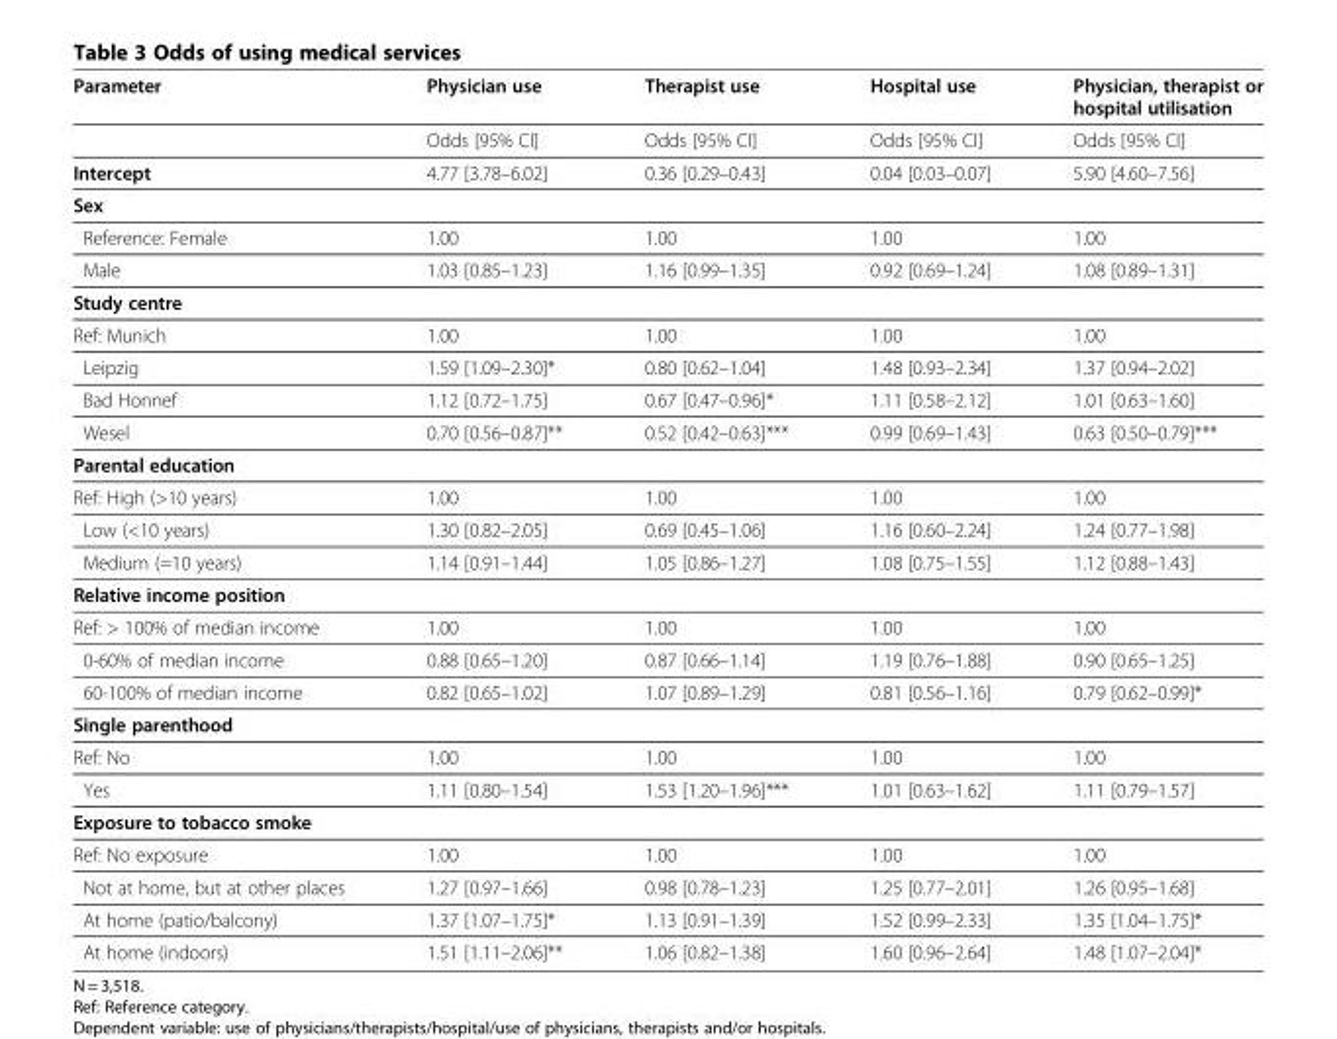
<table><thead><tr><td>Parameter</td><td>Physician use</td><td>Therapist use</td><td>Hospital use</td><td>Physician, therapist or hospital utilisation</td></tr></thead><tbody><tr><td></td><td>Odds [95% CI]</td><td>Odds [95% CI]</td><td>Odds [95% CI]</td><td>Odds [95% CI]</td></tr><tr><td>Intercept</td><td>4.77 [3.78–6.02]</td><td>0.36 [0.29–0.43]</td><td>0.04 [0.03–0.07]</td><td>5.90 [4.60–7.56]</td></tr><tr><td colspan="5">Sex</td></tr><tr><td>Reference: Female</td><td>1.00</td><td>1.00</td><td>1.00</td><td>1.00</td></tr><tr><td>Male</td><td>1.03 [0.85–1.23]</td><td>1.16 [0.99–1.35]</td><td>0.92 [0.69–1.24]</td><td>1.08 [0.89–1.31]</td></tr><tr><td colspan="5">Study centre</td></tr><tr><td>Ref: Munich</td><td>1.00</td><td>1.00</td><td>1.00</td><td>1.00</td></tr><tr><td>Leipzig</td><td>1.59 [1.09–2.30]*</td><td>0.80 [0.62–1.04]</td><td>1.48 [0.93–2.34]</td><td>1.37 [0.94–2.02]</td></tr><tr><td>Bad Honnef</td><td>1.12 [0.72–1.75]</td><td>0.67 [0.47–0.96]*</td><td>1.11 [0.58–2.12]</td><td>1.01 [0.63–1.60]</td></tr><tr><td>Wesel</td><td>0.70 [0.56–0.87]**</td><td>0.52 [0.42–0.63]***</td><td>0.99 [0.69–1.43]</td><td>0.63 [0.50–0.79]***</td></tr><tr><td colspan="5">Parental education</td></tr><tr><td>Ref: High (&gt;10 years)</td><td>1.00</td><td>1.00</td><td>1.00</td><td>1.00</td></tr><tr><td>Low (&lt;10 years)</td><td>1.30 [0.82–2.05]</td><td>0.69 [0.45–1.06]</td><td>1.16 [0.60–2.24]</td><td>1.24 [0.77–1.98]</td></tr><tr><td>Medium (=10 years)</td><td>1.14 [0.91–1.44]</td><td>1.05 [0.86–1.27]</td><td>1.08 [0.75–1.55]</td><td>1.12 [0.88–1.43]</td></tr><tr><td colspan="5">Relative income position</td></tr><tr><td>Ref: &gt; 100% of median income</td><td>1.00</td><td>1.00</td><td>1.00</td><td>1.00</td></tr><tr><td>0-60% of median income</td><td>0.88 [0.65–1.20]</td><td>0.87 [0.66–1.14]</td><td>1.19 [0.76–1.88]</td><td>0.90 [0.65–1.25]</td></tr><tr><td>60-100% of median income</td><td>0.82 [0.65–1.02]</td><td>1.07 [0.89–1.29]</td><td>0.81 [0.56–1.16]</td><td>0.79 [0.62–0.99]*</td></tr><tr><td colspan="5">Single parenthood</td></tr><tr><td>Ref: No</td><td>1.00</td><td>1.00</td><td>1.00</td><td>1.00</td></tr><tr><td>Yes</td><td>1.11 [0.80–1.54]</td><td>1.53 [1.20–1.96]***</td><td>1.01 [0.63–1.62]</td><td>1.11 [0.79–1.57]</td></tr><tr><td colspan="5">Exposure to tobacco smoke</td></tr><tr><td>Ref: No exposure</td><td>1.00</td><td>1.00</td><td>1.00</td><td>1.00</td></tr><tr><td>Not at home, but at other places</td><td>1.27 [0.97–1.66]</td><td>0.98 [0.78–1.23]</td><td>1.25 [0.77–2.01]</td><td>1.26 [0.95–1.68]</td></tr><tr><td>At home (patio/balcony)</td><td>1.37 [1.07–1.75]*</td><td>1.13 [0.91–1.39]</td><td>1.52 [0.99–2.33]</td><td>1.35 [1.04–1.75]*</td></tr><tr><td>At home (indoors)</td><td>1.51 [1.11–2.06]**</td><td>1.06 [0.82–1.38]</td><td>1.60 [0.96–2.64]</td><td>1.48 [1.07–2.04]*</td></tr></tbody></table>